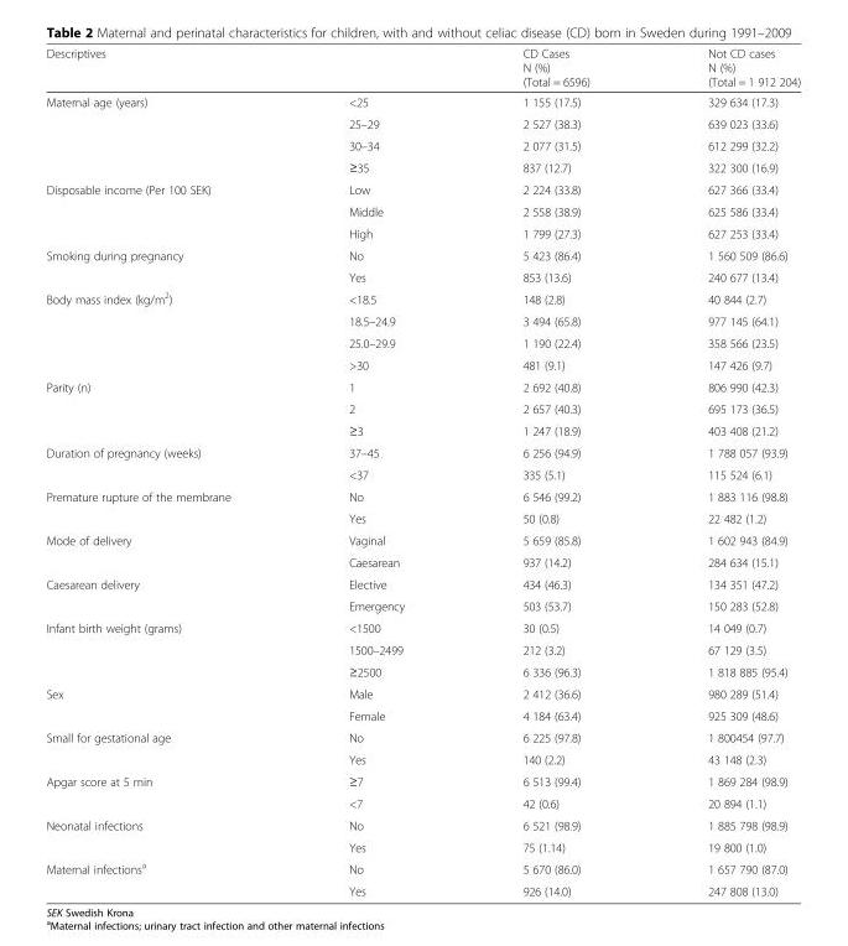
<table><thead><tr><td colspan="2">Descriptives</td><td rowspan="2">CD Cases N (%) (Total = 6596) 1 155 (17.5)</td><td rowspan="2">Not CD cases N (%) (Total = 1 912 204) 329 634 (17.3)</td></tr><tr><td>Maternal age (years)</td><td>&lt;25</td></tr></thead><tbody><tr><td></td><td>25–29</td><td>2 527 (38.3)</td><td>639 023 (33.6)</td></tr><tr><td></td><td>30–34</td><td>2 077 (31.5)</td><td>612 299 (32.2)</td></tr><tr><td></td><td>≥35</td><td>837 (12.7)</td><td>322 300 (16.9)</td></tr><tr><td rowspan="3">Disposable income (Per 100 SEK)</td><td>Low</td><td>2 224 (33.8)</td><td>627 366 (33.4)</td></tr><tr><td>Middle</td><td>2 558 (38.9)</td><td>625 586 (33.4)</td></tr><tr><td>High</td><td>1 799 (27.3)</td><td>627 253 (33.4)</td></tr><tr><td rowspan="2">Smoking during pregnancy</td><td>No</td><td>5 423 (86.4)</td><td>1 560 509 (86.6)</td></tr><tr><td>Yes</td><td>853 (13.6)</td><td>240 677 (13.4)</td></tr><tr><td rowspan="4">Body mass index (kg/m<sup>2</sup>)</td><td>&lt;18.5</td><td>148 (2.8)</td><td>40 844 (2.7)</td></tr><tr><td>18.5–24.9</td><td>3 494 (65.8)</td><td>977 145 (64.1)</td></tr><tr><td>25.0–29.9</td><td>1 190 (22.4)</td><td>358 566 (23.5)</td></tr><tr><td>&gt;30</td><td>481 (9.1)</td><td>147 426 (9.7)</td></tr><tr><td rowspan="3">Parity (n)</td><td>1</td><td>2 692 (40.8)</td><td>806 990 (42.3)</td></tr><tr><td>2</td><td>2 657 (40.3)</td><td>695 173 (36.5)</td></tr><tr><td>≥3</td><td>1 247 (18.9)</td><td>403 408 (21.2)</td></tr><tr><td rowspan="2">Duration of pregnancy (weeks)</td><td>37–45</td><td>6 256 (94.9)</td><td>1 788 057 (93.9)</td></tr><tr><td>&lt;37</td><td>335 (5.1)</td><td>115 524 (6.1)</td></tr><tr><td rowspan="2">Premature rupture of the membrane</td><td>No</td><td>6 546 (99.2)</td><td>1 883 116 (98.8)</td></tr><tr><td>Yes</td><td>50 (0.8)</td><td>22 482 (1.2)</td></tr><tr><td rowspan="2">Mode of delivery</td><td>Vaginal</td><td>5 659 (85.8)</td><td>1 602 943 (84.9)</td></tr><tr><td>Caesarean</td><td>937 (14.2)</td><td>284 634 (15.1)</td></tr><tr><td rowspan="2">Caesarean delivery</td><td>Elective</td><td>434 (46.3)</td><td>134 351 (47.2)</td></tr><tr><td>Emergency</td><td>503 (53.7)</td><td>150 283 (52.8)</td></tr><tr><td rowspan="3">Infant birth weight (grams)</td><td>&lt;1500</td><td>30 (0.5)</td><td>14 049 (0.7)</td></tr><tr><td>1500–2499</td><td>212 (3.2)</td><td>67 129 (3.5)</td></tr><tr><td>≥2500</td><td>6 336 (96.3)</td><td>1 818 885 (95.4)</td></tr><tr><td rowspan="2">Sex</td><td>Male</td><td>2 412 (36.6)</td><td>980 289 (51.4)</td></tr><tr><td>Female</td><td>4 184 (63.4)</td><td>925 309 (48.6)</td></tr><tr><td rowspan="2">Small for gestational age</td><td>No</td><td>6 225 (97.8)</td><td>1 800454 (97.7)</td></tr><tr><td>Yes</td><td>140 (2.2)</td><td>43 148 (2.3)</td></tr><tr><td rowspan="2">Apgar score at 5 min</td><td>≥7</td><td>6 513 (99.4)</td><td>1 869 284 (98.9)</td></tr><tr><td>&lt;7</td><td>42 (0.6)</td><td>20 894 (1.1)</td></tr><tr><td rowspan="2">Neonatal infections</td><td>No</td><td>6 521 (98.9)</td><td>1 885 798 (98.9)</td></tr><tr><td>Yes</td><td>75 (1.14)</td><td>19 800 (1.0)</td></tr><tr><td rowspan="2">Maternal infections<sup>a</sup></td><td>No</td><td>5 670 (86.0)</td><td>1 657 790 (87.0)</td></tr><tr><td>Yes</td><td>926 (14.0)</td><td>247 808 (13.0)</td></tr></tbody></table>